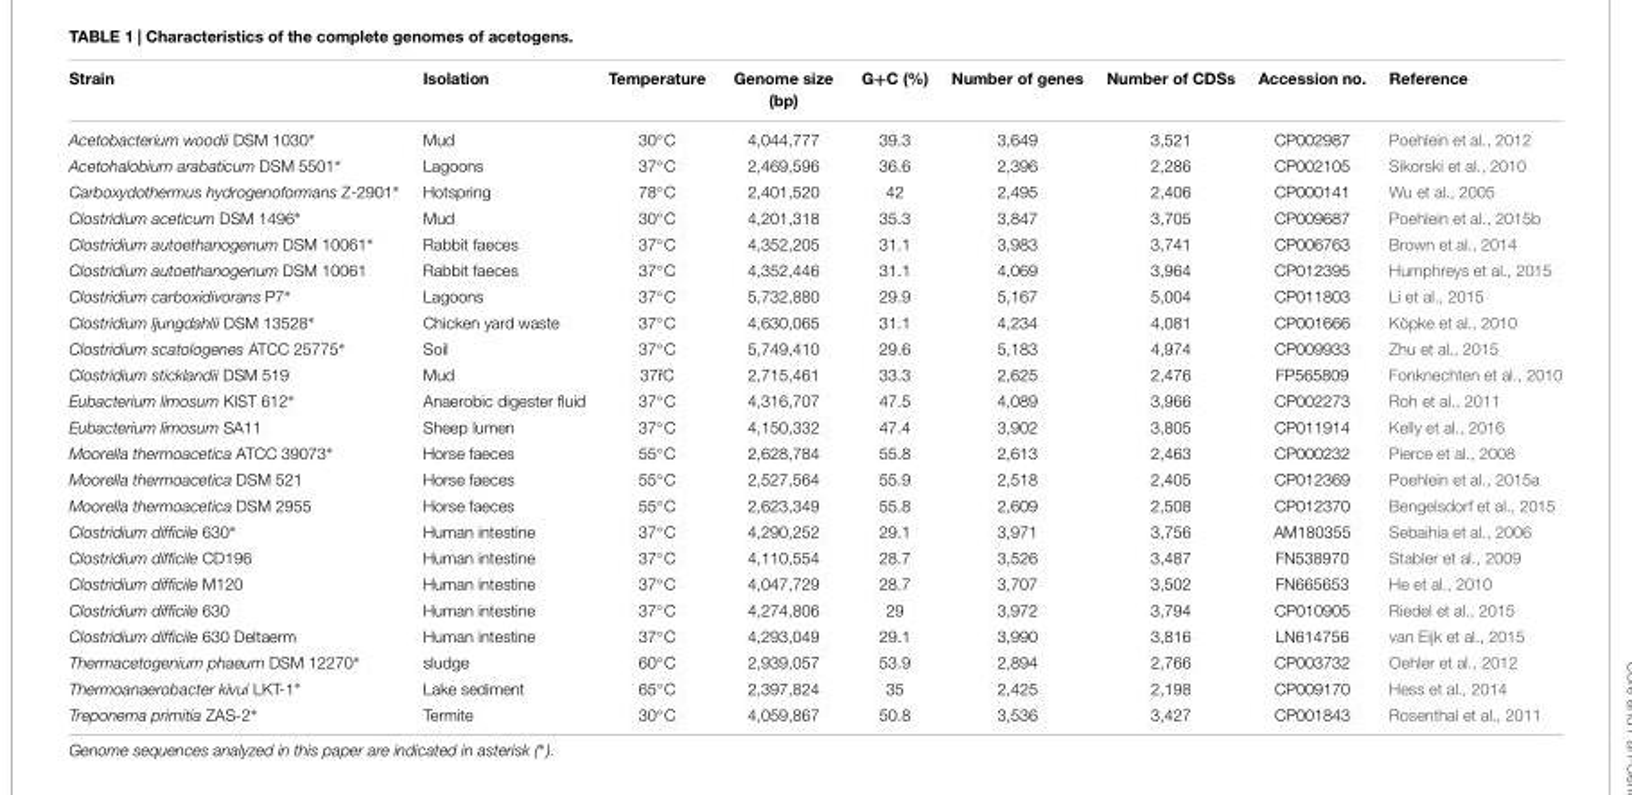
<table><thead><tr><td>Strain</td><td>Isolation</td><td>Temperature</td><td>Genome size (bp)</td><td>G+C (%)</td><td>Number of genes</td><td>Number of CDSs</td><td>Accession no.</td><td>Reference</td></tr></thead><tbody><tr><td>Acetobacterium woodii DSM 1030∗</td><td>Mud</td><td>30◦C</td><td>4,044,777</td><td>39.3</td><td>3,649</td><td>3,521</td><td>CP002987</td><td>Poehlein et al., 2012</td></tr><tr><td>Acetohalobium arabaticum DSM 5501∗</td><td>Lagoons</td><td>37◦C</td><td>2,469,596</td><td>36.6</td><td>2,396</td><td>2,286</td><td>CP002105</td><td>Sikorski et al., 2010</td></tr><tr><td>Carboxydothermus hydrogenoformans Z-2901∗</td><td>Hotspring</td><td>78◦C</td><td>2,401,520</td><td>42</td><td>2,495</td><td>2,406</td><td>CP000141</td><td>Wu et al., 2005</td></tr><tr><td>Clostridium aceticum DSM 1496∗</td><td>Mud</td><td>30◦C</td><td>4,201,318</td><td>35.3</td><td>3,847</td><td>3,705</td><td>CP009687</td><td>Poehlein et al., 2015b</td></tr><tr><td>Clostridium autoethanogenum DSM 10061∗</td><td>Rabbit faeces</td><td>37◦C</td><td>4,352,205</td><td>31.1</td><td>3,983</td><td>3,741</td><td>CP006763</td><td>Brown et al., 2014</td></tr><tr><td>Clostridium autoethanogenum DSM 10061</td><td>Rabbit faeces</td><td>37◦C</td><td>4,352,446</td><td>31.1</td><td>4,069</td><td>3,964</td><td>CP012395</td><td>Humphreys et al., 2015</td></tr><tr><td>Clostridium carboxidivorans P7∗</td><td>Lagoons</td><td>37◦C</td><td>5,732,880</td><td>29.9</td><td>5,167</td><td>5,004</td><td>CP011803</td><td>Li et al., 2015</td></tr><tr><td>Clostridium ljungdahlii DSM 13528∗</td><td>Chicken yard waste</td><td>37◦C</td><td>4,630,065</td><td>31.1</td><td>4,234</td><td>4,081</td><td>CP001666</td><td>Köpke et al., 2010</td></tr><tr><td>Clostridium scatologenes ATCC 25775∗</td><td>Soil</td><td>37◦C</td><td>5,749,410</td><td>29.6</td><td>5,183</td><td>4,974</td><td>CP009933</td><td>Zhu et al., 2015</td></tr><tr><td>Clostridium sticklandii DSM 519</td><td>Mud</td><td>37ˇrC</td><td>2,715,461</td><td>33.3</td><td>2,625</td><td>2,476</td><td>FP565809</td><td>Fonknechten et al., 2010</td></tr><tr><td>Eubacterium limosum KIST 612∗</td><td>Anaerobic digester fluid</td><td>37◦C</td><td>4,316,707</td><td>47.5</td><td>4,089</td><td>3,966</td><td>CP002273</td><td>Roh et al., 2011</td></tr><tr><td>Eubacterium limosum SA11</td><td>Sheep lumen</td><td>37◦C</td><td>4,150,332</td><td>47.4</td><td>3,902</td><td>3,805</td><td>CP011914</td><td>Kelly et al., 2016</td></tr><tr><td>Moorella thermoacetica ATCC 39073∗</td><td>Horse faeces</td><td>55◦C</td><td>2,628,784</td><td>55.8</td><td>2,613</td><td>2,463</td><td>CP000232</td><td>Pierce et al., 2008</td></tr><tr><td>Moorella thermoacetica DSM 521</td><td>Horse faeces</td><td>55◦C</td><td>2,527,564</td><td>55.9</td><td>2,518</td><td>2,405</td><td>CP012369</td><td>Poehlein et al., 2015a</td></tr><tr><td>Moorella thermoacetica DSM 2955</td><td>Horse faeces</td><td>55◦C</td><td>2,623,349</td><td>55.8</td><td>2,609</td><td>2,508</td><td>CP012370</td><td>Bengelsdorf et al., 2015</td></tr><tr><td>Clostridium difficile 630∗</td><td>Human intestine</td><td>37◦C</td><td>4,290,252</td><td>29.1</td><td>3,971</td><td>3,756</td><td>AM180355</td><td>Sebaihia et al., 2006</td></tr><tr><td>Clostridium difficile CD196</td><td>Human intestine</td><td>37◦C</td><td>4,110,554</td><td>28.7</td><td>3,526</td><td>3,487</td><td>FN538970</td><td>Stabler et al., 2009</td></tr><tr><td>Clostridium difficile M120</td><td>Human intestine</td><td>37◦C</td><td>4,047,729</td><td>28.7</td><td>3,707</td><td>3,502</td><td>FN665653</td><td>He et al., 2010</td></tr><tr><td>Clostridium difficile 630</td><td>Human intestine</td><td>37◦C</td><td>4,274,806</td><td>29</td><td>3,972</td><td>3,794</td><td>CP010905</td><td>Riedel et al., 2015</td></tr><tr><td>Clostridium difficile 630 Deltaerm</td><td>Human intestine</td><td>37◦C</td><td>4,293,049</td><td>29.1</td><td>3,990</td><td>3,816</td><td>LN614756</td><td>van Eijk et al., 2015</td></tr><tr><td>Thermacetogenium phaeum DSM 12270∗</td><td>sludge</td><td>60◦C</td><td>2,939,057</td><td>53.9</td><td>2,894</td><td>2,766</td><td>CP003732</td><td>Oehler et al., 2012</td></tr><tr><td>Thermoanaerobacter kivui LKT-1∗</td><td>Lake sediment</td><td>65◦C</td><td>2,397,824</td><td>35</td><td>2,425</td><td>2,198</td><td>CP009170</td><td>Hess et al., 2014</td></tr><tr><td>Treponema primitia ZAS-2∗</td><td>Termite</td><td>30◦C</td><td>4,059,867</td><td>50.8</td><td>3,536</td><td>3,427</td><td>CP001843</td><td>Rosenthal et al., 2011</td></tr></tbody></table>